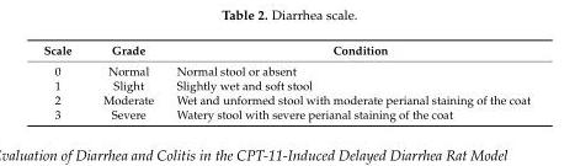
<table><thead><tr><td>Scale</td><td>Grade</td><td>Condition</td></tr></thead><tbody><tr><td>0</td><td>Normal</td><td>Normal stool or absent</td></tr><tr><td>1</td><td>Slight</td><td>Slightly wet and soft stool</td></tr><tr><td>2</td><td>Moderate</td><td>Wet and unformed stool with moderate perianal staining of the coat</td></tr><tr><td>3</td><td>Severe</td><td>Watery stool with severe perianal staining of the coat</td></tr></tbody></table>